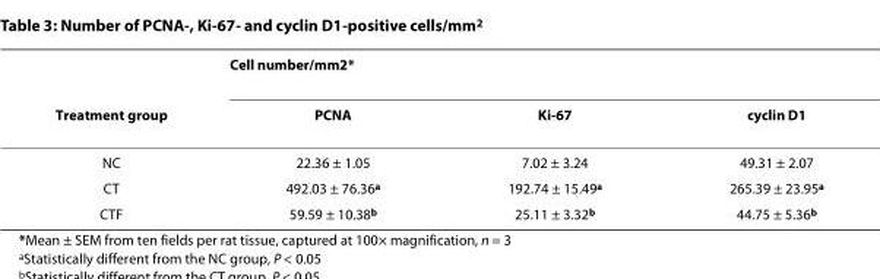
<table><thead><tr><td rowspan="2">Treatment group</td><td colspan="3">Cell number/mm<sup>2</sup>*</td></tr><tr><td>PCNA</td><td>Ki-67</td><td>cyclin D1</td></tr></thead><tbody><tr><td>NC</td><td>22.36 ± 1.05</td><td>7.02 ± 3.24</td><td>49.31 ± 2.07</td></tr><tr><td>CT</td><td>492.03 ± 76.36<sup>a</sup></td><td>192.74 ± 15.49<sup>a</sup></td><td>265.39 ± 23.95<sup>a</sup></td></tr><tr><td>CTF</td><td>59.59 ± 10.38<sup>b</sup></td><td>25.11 ± 3.32<sup>b</sup></td><td>44.75 ± 5.36<sup>b</sup></td></tr></tbody></table>